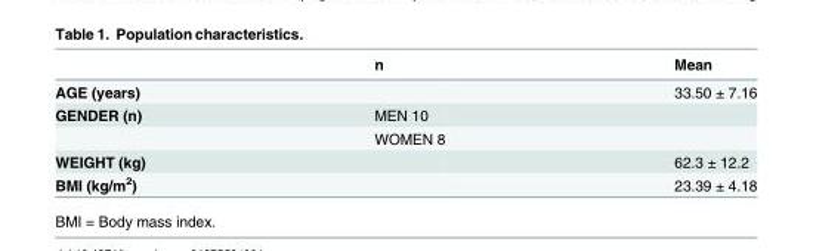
<table><thead><tr><td></td><td>n</td><td>Mean</td></tr></thead><tbody><tr><td>AGE (years)</td><td></td><td>33.50 ± 7.16</td></tr><tr><td rowspan="2">GENDER (n)</td><td>MEN 10</td><td></td></tr><tr><td>WOMEN 8</td><td></td></tr><tr><td>WEIGHT (kg)</td><td></td><td>62.3 ± 12.2</td></tr><tr><td>BMI (kg/m<sup>2</sup>)</td><td></td><td>23.39 ± 4.18</td></tr></tbody></table>